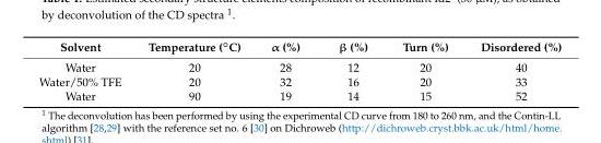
<table><thead><tr><td>Solvent</td><td>Temperature (◦C)</td><td>α (%)</td><td>β (%)</td><td>Turn (%)</td><td>Disordered (%)</td></tr></thead><tbody><tr><td>Water</td><td>20</td><td>28</td><td>12</td><td>20</td><td>40</td></tr><tr><td>Water/50% TFE</td><td>20</td><td>32</td><td>16</td><td>20</td><td>33</td></tr><tr><td>Water</td><td>90</td><td>19</td><td>14</td><td>15</td><td>52</td></tr></tbody></table>